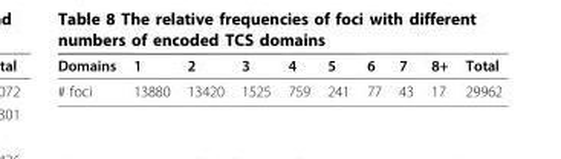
<table><thead><tr><td>Domains</td><td>1</td><td>2</td><td>3</td><td>4</td><td>5</td><td>6</td><td>7</td><td>8+</td><td>Total</td></tr></thead><tbody><tr><td># foci</td><td>13880</td><td>13420</td><td>1525</td><td>759</td><td>241</td><td>77</td><td>43</td><td>17</td><td>29962</td></tr></tbody></table>